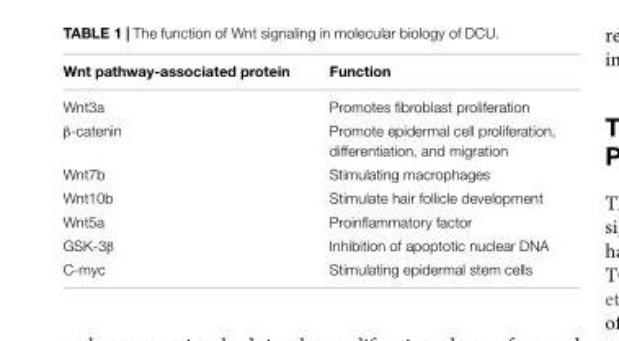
<table><thead><tr><td>Wnt pathway-associated protein</td><td>Function</td></tr></thead><tbody><tr><td>Wnt3a</td><td>Promotes fibroblast proliferation</td></tr><tr><td>β-catenin</td><td>Promote epidermal cell proliferation, differentiation, and migration</td></tr><tr><td>Wnt7b</td><td>Stimulating macrophages</td></tr><tr><td>Wnt10b</td><td>Stimulate hair follicle development</td></tr><tr><td>Wnt5a</td><td>Proinflammatory factor</td></tr><tr><td>GSK-3β</td><td>Inhibition of apoptotic nuclear DNA</td></tr><tr><td>C-myc</td><td>Stimulating epidermal stem cells</td></tr></tbody></table>